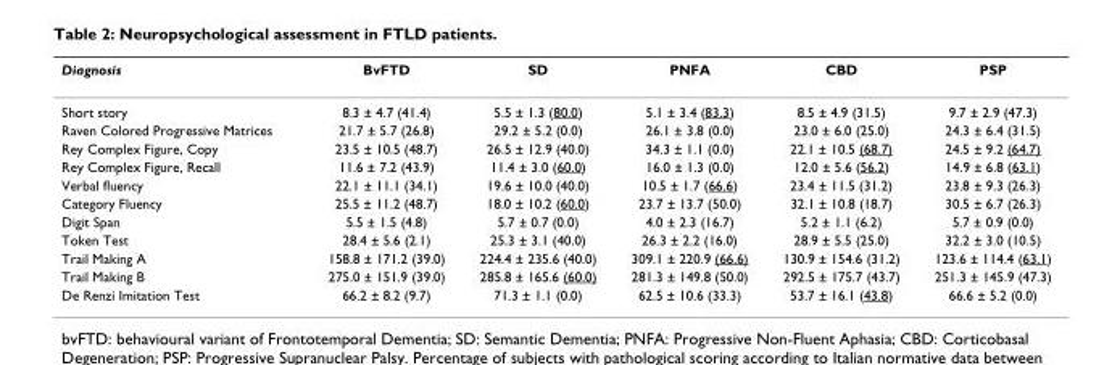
<table><thead><tr><td>Diagnosis</td><td>BvFTD</td><td>SD</td><td>PNFA</td><td>CBD</td><td>PSP</td></tr></thead><tbody><tr><td>Short story</td><td>8.3 ± 4.7 (41.4)</td><td>5.5 ± 1.3 (80.0)</td><td>5.1 ± 3.4 (83.3)</td><td>8.5 ± 4.9 (31.5)</td><td>9.7 ± 2.9 (47.3)</td></tr><tr><td>Raven Colored Progressive Matrices</td><td>21.7 ± 5.7 (26.8)</td><td>29.2 ± 5.2 (0.0)</td><td>26.1 ± 3.8 (0.0)</td><td>23.0 ± 6.0 (25.0)</td><td>24.3 ± 6.4 (31.5)</td></tr><tr><td>Rey Complex Figure, Copy</td><td>23.5 ± 10.5 (48.7)</td><td>26.5 ± 12.9 (40.0)</td><td>34.3 ± 1.1 (0.0)</td><td>22.1 ± 10.5 (68.7)</td><td>24.5 ± 9.2 (64.7)</td></tr><tr><td>Rey Complex Figure, Recall</td><td>11.6 ± 7.2 (43.9)</td><td>11.4 ± 3.0 (60.0)</td><td>16.0 ± 1.3 (0.0)</td><td>12.0 ± 5.6 (56.2)</td><td>14.9 ± 6.8 (63.1)</td></tr><tr><td>Verbal fluency</td><td>22.1 ± 11.1 (34.1)</td><td>19.6 ± 10.0 (40.0)</td><td>10.5 ± 1.7 (66.6)</td><td>23.4 ± 11.5 (31.2)</td><td>23.8 ± 9.3 (26.3)</td></tr><tr><td>Category Fluency</td><td>25.5 ± 11.2 (48.7)</td><td>18.0 ± 10.2 (60.0)</td><td>23.7 ± 13.7 (50.0)</td><td>32.1 ± 10.8 (18.7)</td><td>30.5 ± 6.7 (26.3)</td></tr><tr><td>Digit Span</td><td>5.5 ± 1.5 (4.8)</td><td>5.7 ± 0.7 (0.0)</td><td>4.0 ± 2.3 (16.7)</td><td>5.2 ± 1.1 (6.2)</td><td>5.7 ± 0.9 (0.0)</td></tr><tr><td>Token Test</td><td>28.4 ± 5.6 (2.1)</td><td>25.3 ± 3.1 (40.0)</td><td>26.3 ± 2.2 (16.0)</td><td>28.9 ± 5.5 (25.0)</td><td>32.2 ± 3.0 (10.5)</td></tr><tr><td>Trail Making A</td><td>158.8 ± 171.2 (39.0)</td><td>224.4 ± 235.6 (40.0)</td><td>309.1 ± 220.9 (66.6)</td><td>130.9 ± 154.6 (31.2)</td><td>123.6 ± 114.4 (63.1)</td></tr><tr><td>Trail Making B</td><td>275.0 ± 151.9 (39.0)</td><td>285.8 ± 165.6 (60.0)</td><td>281.3 ± 149.8 (50.0)</td><td>292.5 ± 175.7 (43.7)</td><td>251.3 ± 145.9 (47.3)</td></tr><tr><td>De Renzi Imitation Test</td><td>66.2 ± 8.2 (9.7)</td><td>71.3 ± 1.1 (0.0)</td><td>62.5 ± 10.6 (33.3)</td><td>53.7 ± 16.1 (43.8)</td><td>66.6 ± 5.2 (0.0)</td></tr></tbody></table>